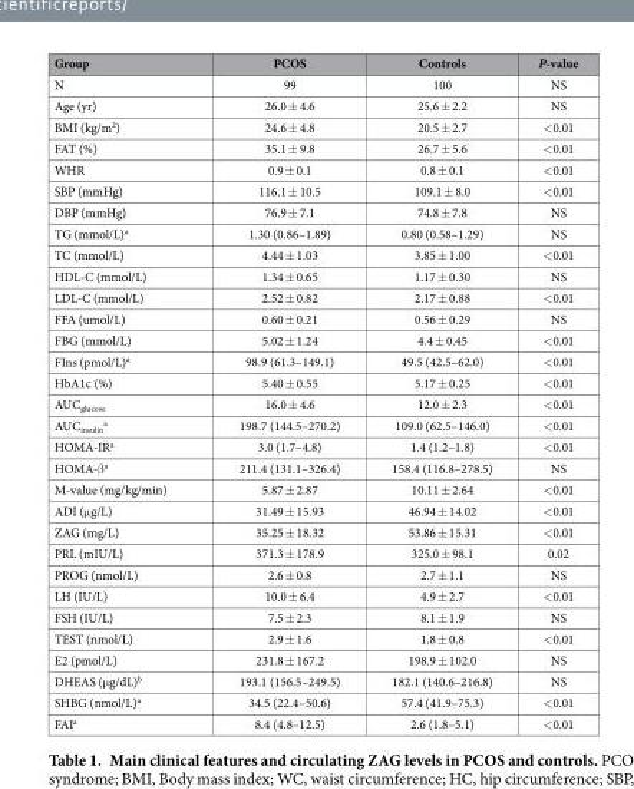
<table><thead><tr><td>Group</td><td>PCOS</td><td>Controls</td><td>P-value</td></tr></thead><tbody><tr><td>N</td><td>99</td><td>100</td><td>NS</td></tr><tr><td>Age (yr)</td><td>26.0 ± 4.6</td><td>25.6 ± 2.2</td><td>NS</td></tr><tr><td>BMI (kg/m2)</td><td>24.6 ± 4.8</td><td>20.5 ± 2.7</td><td>&lt; 0.01</td></tr><tr><td>FAT (%)</td><td>35.1 ± 9.8</td><td>26.7 ± 5.6</td><td>&lt; 0.01</td></tr><tr><td>WHR</td><td>0.9 ± 0.1</td><td>0.8 ± 0.1</td><td>&lt; 0.01</td></tr><tr><td>SBP (mmHg)</td><td>116.1 ± 10.5</td><td>109.1 ± 8.0</td><td>&lt; 0.01</td></tr><tr><td>DBP (mmHg)</td><td>76.9 ± 7.1</td><td>74.8 ± 7.8</td><td>NS</td></tr><tr><td>TG (mmol/L)<sup>a</sup></td><td>1.30 (0.86–1.89)</td><td>0.80 (0.58–1.29)</td><td>NS</td></tr><tr><td>TC (mmol/L)</td><td>4.44 ± 1.03</td><td>3.85 ± 1.00</td><td>&lt; 0.01</td></tr><tr><td>HDL-C (mmol/L)</td><td>1.34 ± 0.65</td><td>1.17 ± 0.30</td><td>NS</td></tr><tr><td>LDL-C (mmol/L)</td><td>2.52 ± 0.82</td><td>2.17 ± 0.88</td><td>&lt; 0.01</td></tr><tr><td>FFA (umol/L)</td><td>0.60 ± 0.21</td><td>0.56 ± 0.29</td><td>NS</td></tr><tr><td>FBG (mmol/L)</td><td>5.02 ± 1.24</td><td>4.4 ± 0.45</td><td>&lt; 0.01</td></tr><tr><td>FIns (pmol/L)<sup>a</sup></td><td>98.9 (61.3–149.1)</td><td>49.5 (42.5–62.0)</td><td>&lt; 0.01</td></tr><tr><td>HbA1c (%)</td><td>5.40 ± 0.55</td><td>5.17 ± 0.25</td><td>&lt; 0.01</td></tr><tr><td>AUC<sub>glucose</sub></td><td>16.0 ± 4.6</td><td>12.0 ± 2.3</td><td>&lt; 0.01</td></tr><tr><td>AUC<sub>insulin</sub> <sup>a</sup></td><td>198.7 (144.5–270.2)</td><td>109.0 (62.5–146.0)</td><td>&lt; 0.01</td></tr><tr><td>HOMA-IR<sup>a</sup></td><td>3.0 (1.7–4.8)</td><td>1.4 (1.2–1.8)</td><td>&lt; 0.01</td></tr><tr><td>HOMA-β <sup>a</sup></td><td>211.4 (131.1–326.4)</td><td>158.4 (116.8–278.5)</td><td>NS</td></tr><tr><td>M-value (mg/kg/min)</td><td>5.87 ± 2.87</td><td>10.11 ± 2.64</td><td>&lt; 0.01</td></tr><tr><td>ADI (μ g/L)</td><td>31.49 ± 15.93</td><td>46.94 ± 14.02</td><td>&lt; 0.01</td></tr><tr><td>ZAG (mg/L)</td><td>35.25 ± 18.32</td><td>53.86 ± 15.31</td><td>&lt; 0.01</td></tr><tr><td>PRL (mIU/L)</td><td>371.3 ± 178.9</td><td>325.0 ± 98.1</td><td>0.02</td></tr><tr><td>PROG (nmol/L)</td><td>2.6 ± 0.8</td><td>2.7 ± 1.1</td><td>NS</td></tr><tr><td>LH (IU/L)</td><td>10.0 ± 6.4</td><td>4.9 ± 2.7</td><td>&lt; 0.01</td></tr><tr><td>FSH (IU/L)</td><td>7.5 ± 2.3</td><td>8.1 ± 1.9</td><td>NS</td></tr><tr><td>TEST (nmol/L)</td><td>2.9 ± 1.6</td><td>1.8 ± 0.8</td><td>&lt; 0.01</td></tr><tr><td>E2 (pmol/L)</td><td>231.8 ± 167.2</td><td>198.9 ± 102.0</td><td>NS</td></tr><tr><td>DHEAS (μ g/dL)<sup>b</sup></td><td>193.1 (156.5–249.5)</td><td>182.1 (140.6–216.8)</td><td>NS</td></tr><tr><td>SHBG (nmol/L)<sup>a</sup></td><td>34.5 (22.4–50.6)</td><td>57.4 (41.9–75.3)</td><td>&lt; 0.01</td></tr><tr><td>FAI<sup>a</sup></td><td>8.4 (4.8–12.5)</td><td>2.6 (1.8–5.1)</td><td>&lt; 0.01</td></tr></tbody></table>